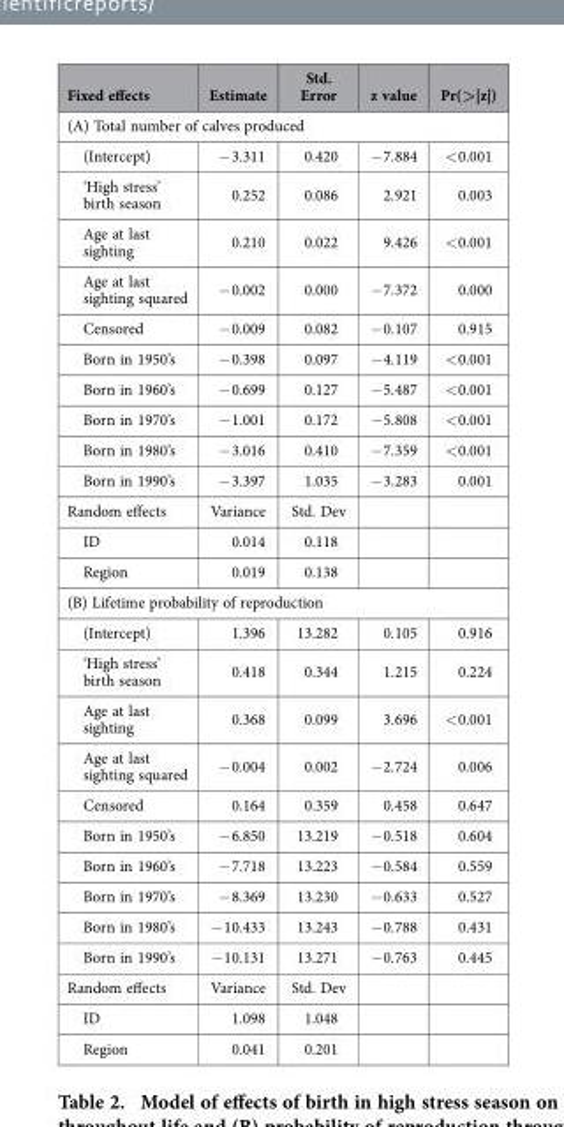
<table><thead><tr><td>Fixed effects</td><td>Estimate</td><td>Std. Error</td><td>z value</td><td>Pr(&gt;|z|)</td></tr></thead><tbody><tr><td colspan="5">(A) Total number of calves produced</td></tr><tr><td>(Intercept)</td><td>− 3.311</td><td>0.420</td><td>− 7.884</td><td>&lt; 0.001</td></tr><tr><td>‘High stress’ birth season</td><td>0.252</td><td>0.086</td><td>2.921</td><td>0.003</td></tr><tr><td>Age at last sighting</td><td>0.210</td><td>0.022</td><td>9.426</td><td>&lt; 0.001</td></tr><tr><td>Age at last sighting squared</td><td>− 0.002</td><td>0.000</td><td>− 7.372</td><td>0.000</td></tr><tr><td>Censored</td><td>− 0.009</td><td>0.082</td><td>− 0.107</td><td>0.915</td></tr><tr><td>Born in 1950’s</td><td>− 0.398</td><td>0.097</td><td>− 4.119</td><td>&lt; 0.001</td></tr><tr><td>Born in 1960’s</td><td>− 0.699</td><td>0.127</td><td>− 5.487</td><td>&lt; 0.001</td></tr><tr><td>Born in 1970’s</td><td>− 1.001</td><td>0.172</td><td>− 5.808</td><td>&lt; 0.001</td></tr><tr><td>Born in 1980’s</td><td>− 3.016</td><td>0.410</td><td>− 7.359</td><td>&lt; 0.001</td></tr><tr><td>Born in 1990’s</td><td>− 3.397</td><td>1.035</td><td>− 3.283</td><td>0.001</td></tr><tr><td>Random effects</td><td>Variance</td><td>Std. Dev</td><td></td><td></td></tr><tr><td>ID</td><td>0.014</td><td>0.118</td><td></td><td></td></tr><tr><td>Region</td><td>0.019</td><td>0.138</td><td></td><td></td></tr><tr><td colspan="5">(B) Lifetime probability of reproduction</td></tr><tr><td>(Intercept)</td><td>1.396</td><td>13.282</td><td>0.105</td><td>0.916</td></tr><tr><td>‘High stress’ birth season</td><td>0.418</td><td>0.344</td><td>1.215</td><td>0.224</td></tr><tr><td>Age at last sighting</td><td>0.368</td><td>0.099</td><td>3.696</td><td>&lt; 0.001</td></tr><tr><td>Age at last sighting squared</td><td>− 0.004</td><td>0.002</td><td>− 2.724</td><td>0.006</td></tr><tr><td>Censored</td><td>0.164</td><td>0.359</td><td>0.458</td><td>0.647</td></tr><tr><td>Born in 1950’s</td><td>− 6.850</td><td>13.219</td><td>− 0.518</td><td>0.604</td></tr><tr><td>Born in 1960’s</td><td>− 7.718</td><td>13.223</td><td>− 0.584</td><td>0.559</td></tr><tr><td>Born in 1970’s</td><td>− 8.369</td><td>13.230</td><td>− 0.633</td><td>0.527</td></tr><tr><td>Born in 1980’s</td><td>− 10.433</td><td>13.243</td><td>− 0.788</td><td>0.431</td></tr><tr><td>Born in 1990’s</td><td>− 10.131</td><td>13.271</td><td>− 0.763</td><td>0.445</td></tr><tr><td>Random effects</td><td>Variance</td><td>Std. Dev</td><td></td><td></td></tr><tr><td>ID</td><td>1.098</td><td>1.048</td><td></td><td></td></tr><tr><td>Region</td><td>0.041</td><td>0.201</td><td></td><td></td></tr></tbody></table>